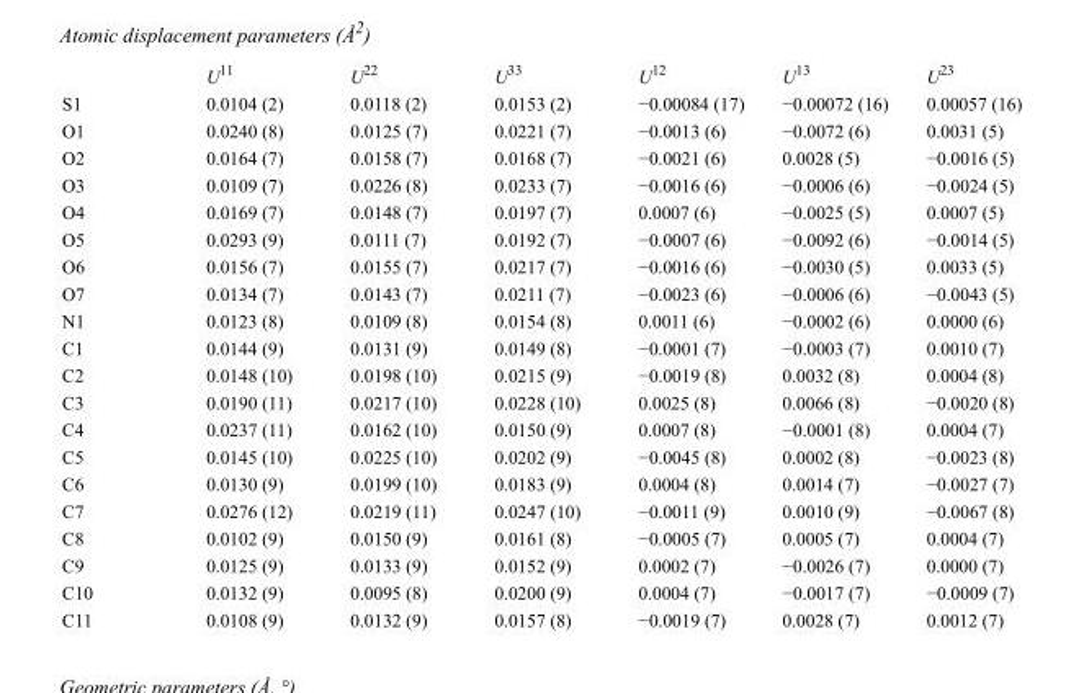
<table><thead><tr><td></td><td>U<sup>11</sup></td><td>U<sup>22</sup></td><td>U<sup>33</sup></td><td>U<sup>12</sup></td><td>U<sup>13</sup></td><td>U<sup>23</sup></td></tr></thead><tbody><tr><td>S1</td><td>0.0104 (2)</td><td>0.0118 (2)</td><td>0.0153 (2)</td><td>−0.00084 (17)</td><td>−0.00072 (16)</td><td>0.00057 (16)</td></tr><tr><td>O1</td><td>0.0240 (8)</td><td>0.0125 (7)</td><td>0.0221 (7)</td><td>−0.0013 (6)</td><td>−0.0072 (6)</td><td>0.0031 (5)</td></tr><tr><td>O2</td><td>0.0164 (7)</td><td>0.0158 (7)</td><td>0.0168 (7)</td><td>−0.0021 (6)</td><td>0.0028 (5)</td><td>−0.0016 (5)</td></tr><tr><td>O3</td><td>0.0109 (7)</td><td>0.0226 (8)</td><td>0.0233 (7)</td><td>−0.0016 (6)</td><td>−0.0006 (6)</td><td>−0.0024 (5)</td></tr><tr><td>O4</td><td>0.0169 (7)</td><td>0.0148 (7)</td><td>0.0197 (7)</td><td>0.0007 (6)</td><td>−0.0025 (5)</td><td>0.0007 (5)</td></tr><tr><td>O5</td><td>0.0293 (9)</td><td>0.0111 (7)</td><td>0.0192 (7)</td><td>−0.0007 (6)</td><td>−0.0092 (6)</td><td>−0.0014 (5)</td></tr><tr><td>O6</td><td>0.0156 (7)</td><td>0.0155 (7)</td><td>0.0217 (7)</td><td>−0.0016 (6)</td><td>−0.0030 (5)</td><td>0.0033 (5)</td></tr><tr><td>O7</td><td>0.0134 (7)</td><td>0.0143 (7)</td><td>0.0211 (7)</td><td>−0.0023 (6)</td><td>−0.0006 (6)</td><td>−0.0043 (5)</td></tr><tr><td>N1</td><td>0.0123 (8)</td><td>0.0109 (8)</td><td>0.0154 (8)</td><td>0.0011 (6)</td><td>−0.0002 (6)</td><td>0.0000 (6)</td></tr><tr><td>C1</td><td>0.0144 (9)</td><td>0.0131 (9)</td><td>0.0149 (8)</td><td>−0.0001 (7)</td><td>−0.0003 (7)</td><td>0.0010 (7)</td></tr><tr><td>C2</td><td>0.0148 (10)</td><td>0.0198 (10)</td><td>0.0215 (9)</td><td>−0.0019 (8)</td><td>0.0032 (8)</td><td>0.0004 (8)</td></tr><tr><td>C3</td><td>0.0190 (11)</td><td>0.0217 (10)</td><td>0.0228 (10)</td><td>0.0025 (8)</td><td>0.0066 (8)</td><td>−0.0020 (8)</td></tr><tr><td>C4</td><td>0.0237 (11)</td><td>0.0162 (10)</td><td>0.0150 (9)</td><td>0.0007 (8)</td><td>−0.0001 (8)</td><td>0.0004 (7)</td></tr><tr><td>C5</td><td>0.0145 (10)</td><td>0.0225 (10)</td><td>0.0202 (9)</td><td>−0.0045 (8)</td><td>0.0002 (8)</td><td>−0.0023 (8)</td></tr><tr><td>C6</td><td>0.0130 (9)</td><td>0.0199 (10)</td><td>0.0183 (9)</td><td>0.0004 (8)</td><td>0.0014 (7)</td><td>−0.0027 (7)</td></tr><tr><td>C7</td><td>0.0276 (12)</td><td>0.0219 (11)</td><td>0.0247 (10)</td><td>−0.0011 (9)</td><td>0.0010 (9)</td><td>−0.0067 (8)</td></tr><tr><td>C8</td><td>0.0102 (9)</td><td>0.0150 (9)</td><td>0.0161 (8)</td><td>−0.0005 (7)</td><td>0.0005 (7)</td><td>0.0004 (7)</td></tr><tr><td>C9</td><td>0.0125 (9)</td><td>0.0133 (9)</td><td>0.0152 (9)</td><td>0.0002 (7)</td><td>−0.0026 (7)</td><td>0.0000 (7)</td></tr><tr><td>C10</td><td>0.0132 (9)</td><td>0.0095 (8)</td><td>0.0200 (9)</td><td>0.0004 (7)</td><td>−0.0017 (7)</td><td>−0.0009 (7)</td></tr><tr><td>C11</td><td>0.0108 (9)</td><td>0.0132 (9)</td><td>0.0157 (8)</td><td>−0.0019 (7)</td><td>0.0028 (7)</td><td>0.0012 (7)</td></tr></tbody></table>